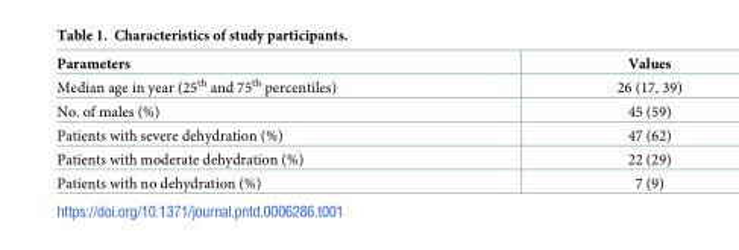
<table><thead><tr><td>Parameters</td><td>Values</td></tr></thead><tbody><tr><td>Median age in year (25<sup>th</sup> and 75<sup>th</sup> percentiles)</td><td>26 (17, 39)</td></tr><tr><td>No. of males (%)</td><td>45 (59)</td></tr><tr><td>Patients with severe dehydration (%)</td><td>47 (62)</td></tr><tr><td>Patients with moderate dehydration (%)</td><td>22 (29)</td></tr><tr><td>Patients with no dehydration (%)</td><td>7 (9)</td></tr></tbody></table>